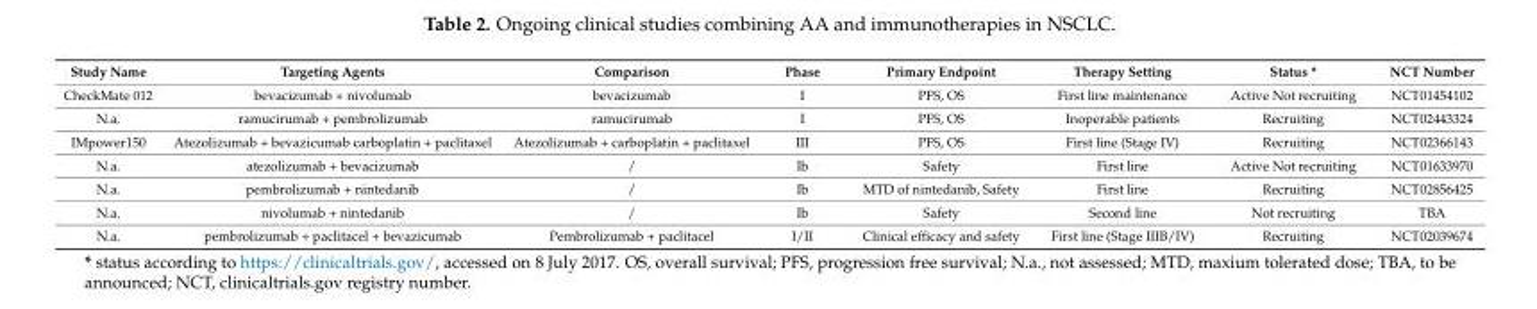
<table><thead><tr><td>Study Name</td><td>Targeting Agents</td><td>Comparison</td><td>Phase</td><td>Primary Endpoint</td><td>Therapy Setting</td><td>Status *</td><td>NCT Number</td></tr></thead><tbody><tr><td>CheckMate 012</td><td>bevacizumab + nivolumab</td><td>bevacizumab</td><td>I</td><td>PFS, OS</td><td>First line maintenance</td><td>Active Not recruiting</td><td>NCT01454102</td></tr><tr><td>N.a.</td><td>ramucirumab + pembrolizumab</td><td>ramucirumab</td><td>I</td><td>PFS, OS</td><td>Inoperable patients</td><td>Recruiting</td><td>NCT02443324</td></tr><tr><td>IMpower150</td><td>Atezolizumab + bevazicumab carboplatin + paclitaxel</td><td>Atezolizumab + carboplatin + paclitaxel</td><td>III</td><td>PFS, OS</td><td>First line (Stage IV)</td><td>Recruiting</td><td>NCT02366143</td></tr><tr><td>N.a.</td><td>atezolizumab + bevacizumab</td><td>/</td><td>Ib</td><td>Safety</td><td>First line</td><td>Active Not recruiting</td><td>NCT01633970</td></tr><tr><td>N.a.</td><td>pembrolizumab + nintedanib</td><td>/</td><td>Ib</td><td>MTD of nintedanib, Safety</td><td>First line</td><td>Recruiting</td><td>NCT02856425</td></tr><tr><td>N.a.</td><td>nivolumab + nintedanib</td><td>/</td><td>Ib</td><td>Safety</td><td>Second line</td><td>Not recruiting</td><td>TBA</td></tr><tr><td>N.a.</td><td>pembrolizumab + paclitacel + bevazicumab</td><td>Pembrolizumab + paclitacel</td><td>I/II</td><td>Clinical efficacy and safety</td><td>First line (Stage IIIB/IV)</td><td>Recruiting</td><td>NCT02039674</td></tr></tbody></table>